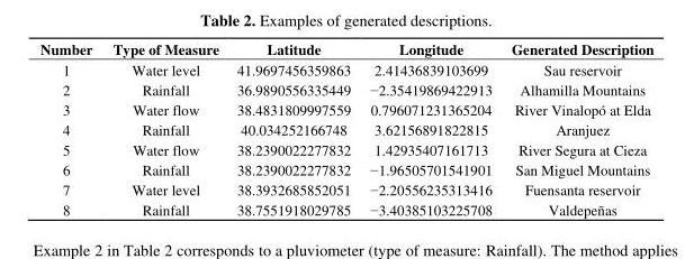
<table><thead><tr><td>Number</td><td>Type of Measure</td><td>Latitude</td><td>Longitude</td><td>Generated Description</td></tr></thead><tbody><tr><td>1</td><td>Water level</td><td>41.9697456359863</td><td>2.41436839103699</td><td>Sau reservoir</td></tr><tr><td>2</td><td>Rainfall</td><td>36.9890556335449</td><td>−2.35419869422913</td><td>Alhamilla Mountains</td></tr><tr><td>3</td><td>Water flow</td><td>38.4831809997559</td><td>0.796071231365204</td><td>River Vinalopó at Elda</td></tr><tr><td>4</td><td>Rainfall</td><td>40.034252166748</td><td>3.62156891822815</td><td>Aranjuez</td></tr><tr><td>5</td><td>Water flow</td><td>38.2390022277832</td><td>1.42935407161713</td><td>River Segura at Cieza</td></tr><tr><td>6</td><td>Rainfall</td><td>38.2390022277832</td><td>−1.96505701541901</td><td>San Miguel Mountains</td></tr><tr><td>7</td><td>Water level</td><td>38.3932685852051</td><td>−2.20556235313416</td><td>Fuensanta reservoir</td></tr><tr><td>8</td><td>Rainfall</td><td>38.7551918029785</td><td>−3.40385103225708</td><td>Valdepeñas</td></tr></tbody></table>